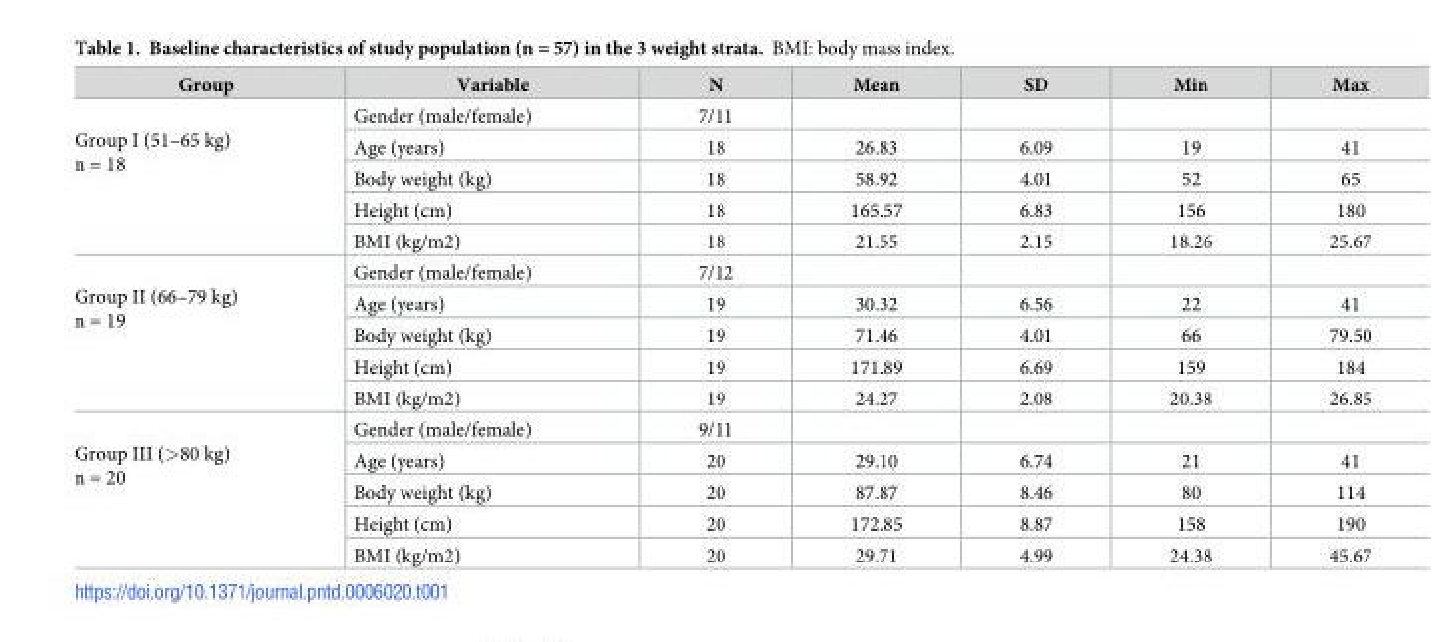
<table><thead><tr><td>Group</td><td>Variable</td><td>N</td><td>Mean</td><td>SD</td><td>Min</td><td>Max</td></tr></thead><tbody><tr><td rowspan="5">Group I (51–65 kg) n = 18</td><td>Gender (male/female)</td><td>7/11</td><td></td><td></td><td></td><td></td></tr><tr><td>Age (years)</td><td>18</td><td>26.83</td><td>6.09</td><td>19</td><td>41</td></tr><tr><td>Body weight (kg)</td><td>18</td><td>58.92</td><td>4.01</td><td>52</td><td>65</td></tr><tr><td>Height (cm)</td><td>18</td><td>165.57</td><td>6.83</td><td>156</td><td>180</td></tr><tr><td>BMI (kg/m2)</td><td>18</td><td>21.55</td><td>2.15</td><td>18.26</td><td>25.67</td></tr><tr><td rowspan="5">Group II (66–79 kg) n = 19</td><td>Gender (male/female)</td><td>7/12</td><td></td><td></td><td></td><td></td></tr><tr><td>Age (years)</td><td>19</td><td>30.32</td><td>6.56</td><td>22</td><td>41</td></tr><tr><td>Body weight (kg)</td><td>19</td><td>71.46</td><td>4.01</td><td>66</td><td>79.50</td></tr><tr><td>Height (cm)</td><td>19</td><td>171.89</td><td>6.69</td><td>159</td><td>184</td></tr><tr><td>BMI (kg/m2)</td><td>19</td><td>24.27</td><td>2.08</td><td>20.38</td><td>26.85</td></tr><tr><td rowspan="5">Group III (&gt;80 kg) n = 20</td><td>Gender (male/female)</td><td>9/11</td><td></td><td></td><td></td><td></td></tr><tr><td>Age (years)</td><td>20</td><td>29.10</td><td>6.74</td><td>21</td><td>41</td></tr><tr><td>Body weight (kg)</td><td>20</td><td>87.87</td><td>8.46</td><td>80</td><td>114</td></tr><tr><td>Height (cm)</td><td>20</td><td>172.85</td><td>8.87</td><td>158</td><td>190</td></tr><tr><td>BMI (kg/m2)</td><td>20</td><td>29.71</td><td>4.99</td><td>24.38</td><td>45.67</td></tr></tbody></table>